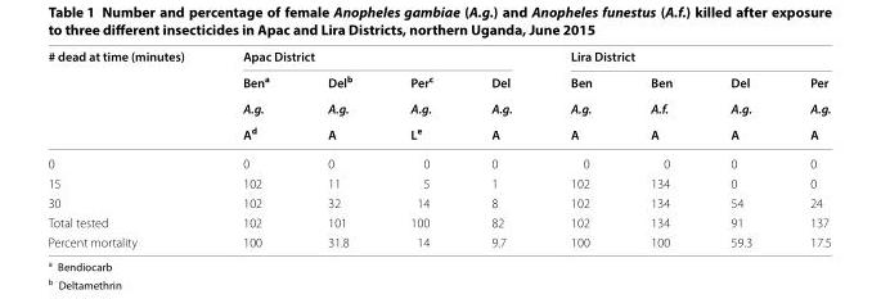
<table><thead><tr><td rowspan="4"># dead at time (minutes)</td><td colspan="4">Apac District</td><td colspan="4">Lira District</td></tr><tr><td rowspan="3">Ben<sup>a</sup> A.g. A<sup>d</sup></td><td rowspan="3">Del<sup>b</sup> A.g. A</td><td rowspan="3">Per<sup>c</sup> A.g. L<sup>e</sup></td><td rowspan="3">Del A.g. A</td><td rowspan="3">Ben A.g. A</td><td rowspan="3">Ben A.f. A</td><td rowspan="3">Del A.g. A</td><td rowspan="3">Per A.g. A</td></tr><tr></tr><tr></tr></thead><tbody><tr><td>0</td><td>0</td><td>0</td><td>0</td><td>0</td><td>0</td><td>0</td><td>0</td><td>0</td></tr><tr><td>15</td><td>102</td><td>11</td><td>5</td><td>1</td><td>102</td><td>134</td><td>0</td><td>0</td></tr><tr><td>30</td><td>102</td><td>32</td><td>14</td><td>8</td><td>102</td><td>134</td><td>54</td><td>24</td></tr><tr><td>Total tested</td><td>102</td><td>101</td><td>100</td><td>82</td><td>102</td><td>134</td><td>91</td><td>137</td></tr><tr><td>Percent mortality</td><td>100</td><td>31.8</td><td>14</td><td>9.7</td><td>100</td><td>100</td><td>59.3</td><td>17.5</td></tr></tbody></table>